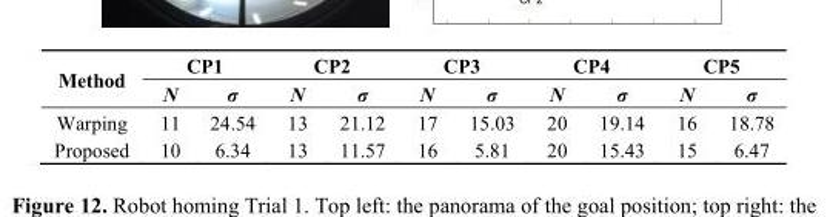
<table><thead><tr><td rowspan="2">Method</td><td colspan="2">CP1</td><td colspan="2">CP2</td><td colspan="2">CP3</td><td colspan="2">CP4</td><td colspan="2">CP5</td></tr><tr><td>N</td><td>σ</td><td>N</td><td>σ</td><td>N</td><td>σ</td><td>N</td><td>σ</td><td>N</td><td>σ</td></tr></thead><tbody><tr><td>Warping</td><td>11</td><td>24.54</td><td>13</td><td>21.12</td><td>17</td><td>15.03</td><td>20</td><td>19.14</td><td>16</td><td>18.78</td></tr><tr><td>Proposed</td><td>10</td><td>6.34</td><td>13</td><td>11.57</td><td>16</td><td>5.81</td><td>20</td><td>15.43</td><td>15</td><td>6.47</td></tr></tbody></table>